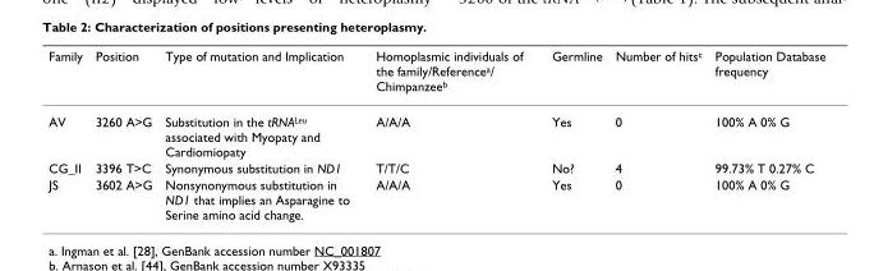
<table><thead><tr><td>Family</td><td>Position</td><td>Type of mutation and Implication</td><td>Homoplasmic individuals of the family/Reference<sup>a</sup>/ Chimpanzee<sup>b</sup></td><td>Germline</td><td>Number of hits<sup>c</sup></td><td>Population Database frequency</td></tr></thead><tbody><tr><td>AV</td><td>3260 A&gt;G</td><td>Substitution in the tRNA<sup>Leu</sup> associated with Myopaty and Cardiomiopaty</td><td>A/A/A</td><td>Yes</td><td>0</td><td>100% A 0% G</td></tr><tr><td>CG_II</td><td>3396 T&gt;C</td><td>Synonymous substitution in ND1</td><td>T/T/C</td><td>No?</td><td>4</td><td>99.73% T 0.27% C</td></tr><tr><td>JS</td><td>3602 A&gt;G</td><td>Nonsynonymous substitution in ND1 that implies an Asparagine to Serine amino acid change.</td><td>A/A/A</td><td>Yes</td><td>0</td><td>100% A 0% G</td></tr></tbody></table>